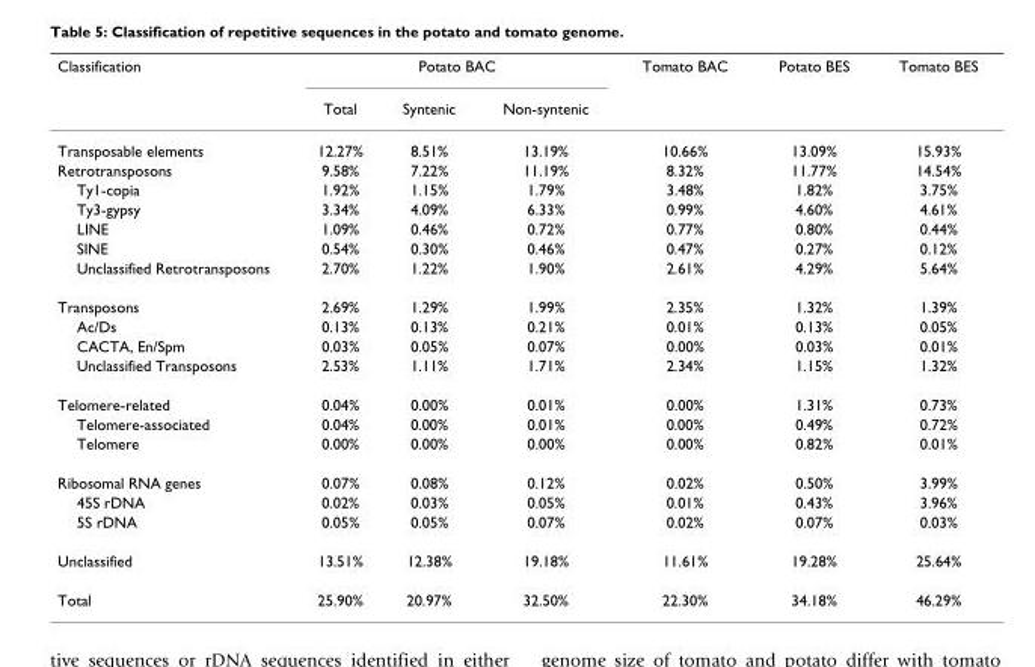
<table><thead><tr><td rowspan="2">Classification</td><td colspan="3">Potato BAC</td><td rowspan="2">Tomato BAC</td><td rowspan="2">Potato BES</td><td rowspan="2">Tomato BES</td></tr><tr><td>Total</td><td>Syntenic</td><td>Non-syntenic</td></tr></thead><tbody><tr><td>Transposable elements</td><td>12.27%</td><td>8.51%</td><td>13.19%</td><td>10.66%</td><td>13.09%</td><td>15.93%</td></tr><tr><td>Retrotransposons</td><td>9.58%</td><td>7.22%</td><td>11.19%</td><td>8.32%</td><td>11.77%</td><td>14.54%</td></tr><tr><td>Ty1-copia</td><td>1.92%</td><td>1.15%</td><td>1.79%</td><td>3.48%</td><td>1.82%</td><td>3.75%</td></tr><tr><td>Ty3-gypsy</td><td>3.34%</td><td>4.09%</td><td>6.33%</td><td>0.99%</td><td>4.60%</td><td>4.61%</td></tr><tr><td>LINE</td><td>1.09%</td><td>0.46%</td><td>0.72%</td><td>0.77%</td><td>0.80%</td><td>0.44%</td></tr><tr><td>SINE</td><td>0.54%</td><td>0.30%</td><td>0.46%</td><td>0.47%</td><td>0.27%</td><td>0.12%</td></tr><tr><td>Unclassified Retrotransposons</td><td>2.70%</td><td>1.22%</td><td>1.90%</td><td>2.61%</td><td>4.29%</td><td>5.64%</td></tr><tr><td>Transposons</td><td>2.69%</td><td>1.29%</td><td>1.99%</td><td>2.35%</td><td>1.32%</td><td>1.39%</td></tr><tr><td>Ac/Ds</td><td>0.13%</td><td>0.13%</td><td>0.21%</td><td>0.01%</td><td>0.13%</td><td>0.05%</td></tr><tr><td>CACTA, En/Spm</td><td>0.03%</td><td>0.05%</td><td>0.07%</td><td>0.00%</td><td>0.03%</td><td>0.01%</td></tr><tr><td>Unclassified Transposons</td><td>2.53%</td><td>1.11%</td><td>1.71%</td><td>2.34%</td><td>1.15%</td><td>1.32%</td></tr><tr><td>Telomere-related</td><td>0.04%</td><td>0.00%</td><td>0.01%</td><td>0.00%</td><td>1.31%</td><td>0.73%</td></tr><tr><td>Telomere-associated</td><td>0.04%</td><td>0.00%</td><td>0.01%</td><td>0.00%</td><td>0.49%</td><td>0.72%</td></tr><tr><td>Telomere</td><td>0.00%</td><td>0.00%</td><td>0.00%</td><td>0.00%</td><td>0.82%</td><td>0.01%</td></tr><tr><td>Ribosomal RNA genes</td><td>0.07%</td><td>0.08%</td><td>0.12%</td><td>0.02%</td><td>0.50%</td><td>3.99%</td></tr><tr><td>45S rDNA</td><td>0.02%</td><td>0.03%</td><td>0.05%</td><td>0.01%</td><td>0.43%</td><td>3.96%</td></tr><tr><td>5S rDNA</td><td>0.05%</td><td>0.05%</td><td>0.07%</td><td>0.02%</td><td>0.07%</td><td>0.03%</td></tr><tr><td>Unclassified</td><td>13.51%</td><td>12.38%</td><td>19.18%</td><td>11.61%</td><td>19.28%</td><td>25.64%</td></tr><tr><td>Total</td><td>25.90%</td><td>20.97%</td><td>32.50%</td><td>22.30%</td><td>34.18%</td><td>46.29%</td></tr></tbody></table>